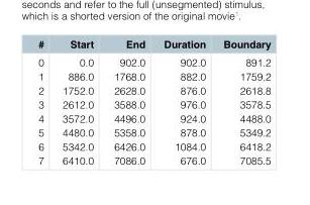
<table><thead><tr><td>#</td><td>Start</td><td>End</td><td>Duration</td><td>Boundary</td></tr></thead><tbody><tr><td>0 1 2 3 4 5 6 7</td><td>0.0 886.0 1752.0 2612.0 3572.0 4480.0 5342.0 6410.0</td><td>902.0 1768.0 2628.0 3588.0 4496.0 5358.0 6426.0 7086.0</td><td>902.0 882.0 876.0 976.0 924.0 878.0 1084.0 676.0</td><td>891.2 1759.2 2618.8 3578.5 4488.0 5349.2 6418.2 7085.5</td></tr></tbody></table>